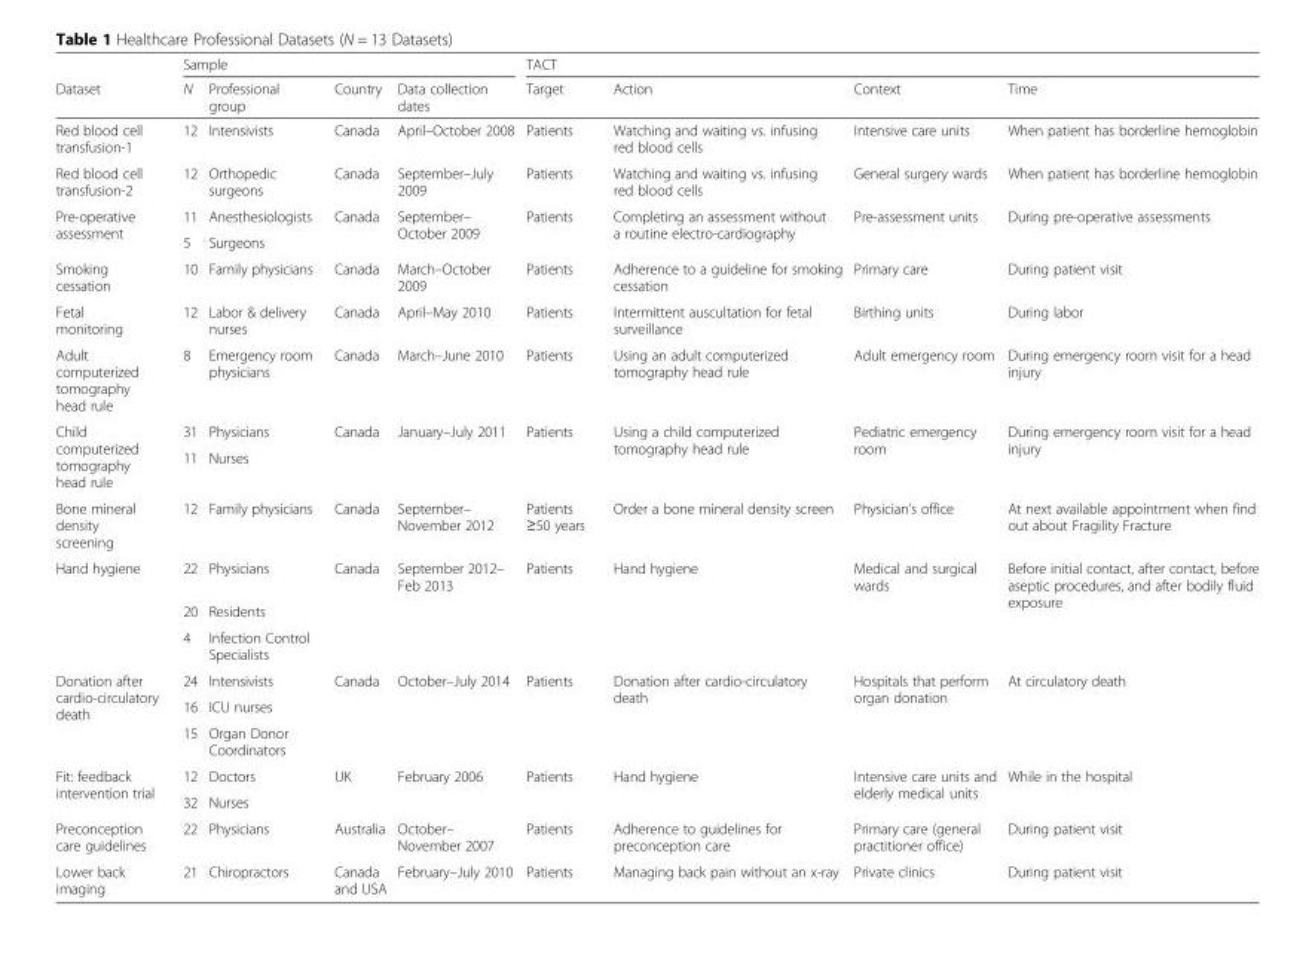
<table><thead><tr><td rowspan="2">Dataset</td><td colspan="4">Sample</td><td colspan="4">TACT</td></tr><tr><td>N</td><td>Professional group</td><td>Country</td><td>Data collection dates</td><td>Target</td><td>Action</td><td>Context</td><td>Time</td></tr></thead><tbody><tr><td>Red blood cell transfusion-1</td><td>12</td><td>Intensivists</td><td>Canada</td><td>April–October 2008</td><td>Patients</td><td>Watching and waiting vs. infusing red blood cells</td><td>Intensive care units</td><td>When patient has borderline hemoglobin</td></tr><tr><td>Red blood cell transfusion-2</td><td>12</td><td>Orthopedic surgeons</td><td>Canada</td><td>September–July 2009</td><td>Patients</td><td>Watching and waiting vs. infusing red blood cells</td><td>General surgery wards</td><td>When patient has borderline hemoglobin</td></tr><tr><td rowspan="2">Pre-operative assessment</td><td>11</td><td>Anesthesiologists</td><td rowspan="2">Canada</td><td rowspan="2">September– October 2009</td><td rowspan="2">Patients</td><td rowspan="2">Completing an assessment without a routine electro-cardiography</td><td rowspan="2">Pre-assessment units</td><td rowspan="2">During pre-operative assessments</td></tr><tr><td>5</td><td>Surgeons</td></tr><tr><td>Smoking cessation</td><td>10</td><td>Family physicians</td><td>Canada</td><td>March–October 2009</td><td>Patients</td><td>Adherence to a guideline for smoking cessation</td><td>Primary care</td><td>During patient visit</td></tr><tr><td>Fetal monitoring</td><td>12</td><td>Labor &amp; delivery nurses</td><td>Canada</td><td>April–May 2010</td><td>Patients</td><td>Intermittent auscultation for fetal surveillance</td><td>Birthing units</td><td>During labor</td></tr><tr><td>Adult computerized tomography head rule</td><td>8</td><td>Emergency room physicians</td><td>Canada</td><td>March–June 2010</td><td>Patients</td><td>Using an adult computerized tomography head rule</td><td>Adult emergency room</td><td>During emergency room visit for a head injury</td></tr><tr><td rowspan="2">Child computerized tomography head rule</td><td>31</td><td>Physicians</td><td rowspan="2">Canada</td><td rowspan="2">January–July 2011</td><td rowspan="2">Patients</td><td rowspan="2">Using a child computerized tomography head rule</td><td rowspan="2">Pediatric emergency room</td><td rowspan="2">During emergency room visit for a head injury</td></tr><tr><td>11</td><td>Nurses</td></tr><tr><td>Bone mineral density screening</td><td>12</td><td>Family physicians</td><td>Canada</td><td>September– November 2012</td><td>Patients ≥50 years</td><td>Order a bone mineral density screen</td><td>Physician’s office</td><td>At next available appointment when find out about Fragility Fracture</td></tr><tr><td rowspan="3">Hand hygiene</td><td>22</td><td>Physicians</td><td>Canada</td><td>September 2012– Feb 2013</td><td>Patients</td><td>Hand hygiene</td><td>Medical and surgical wards</td><td rowspan="3">Before initial contact, after contact, before aseptic procedures, and after bodily fluid exposure</td></tr><tr><td>20</td><td>Residents</td><td></td><td></td><td></td><td></td><td></td></tr><tr><td>4</td><td>Infection Control Specialists</td><td></td><td></td><td></td><td></td><td></td></tr><tr><td rowspan="3">Donation after cardio-circulatory death</td><td>24</td><td>Intensivists</td><td rowspan="3">Canada</td><td rowspan="3">October–July 2014</td><td rowspan="3">Patients</td><td rowspan="3">Donation after cardio-circulatory death</td><td rowspan="3">Hospitals that perform organ donation</td><td rowspan="3">At circulatory death</td></tr><tr><td>16</td><td>ICU nurses</td></tr><tr><td>15</td><td>Organ Donor Coordinators</td></tr><tr><td rowspan="2">Fit: feedback intervention trial</td><td>12</td><td>Doctors</td><td rowspan="2">UK</td><td rowspan="2">February 2006</td><td rowspan="2">Patients</td><td rowspan="2">Hand hygiene</td><td rowspan="2">Intensive care units and elderly medical units</td><td rowspan="2">While in the hospital</td></tr><tr><td>32</td><td>Nurses</td></tr><tr><td>Preconception care guidelines</td><td>22</td><td>Physicians</td><td>Australia</td><td>October– November 2007</td><td>Patients</td><td>Adherence to guidelines for preconception care</td><td>Primary care (general practitioner office)</td><td>During patient visit</td></tr><tr><td>Lower back imaging</td><td>21</td><td>Chiropractors</td><td>Canada and USA</td><td>February–July 2010</td><td>Patients</td><td>Managing back pain without an x-ray</td><td>Private clinics</td><td>During patient visit</td></tr></tbody></table>